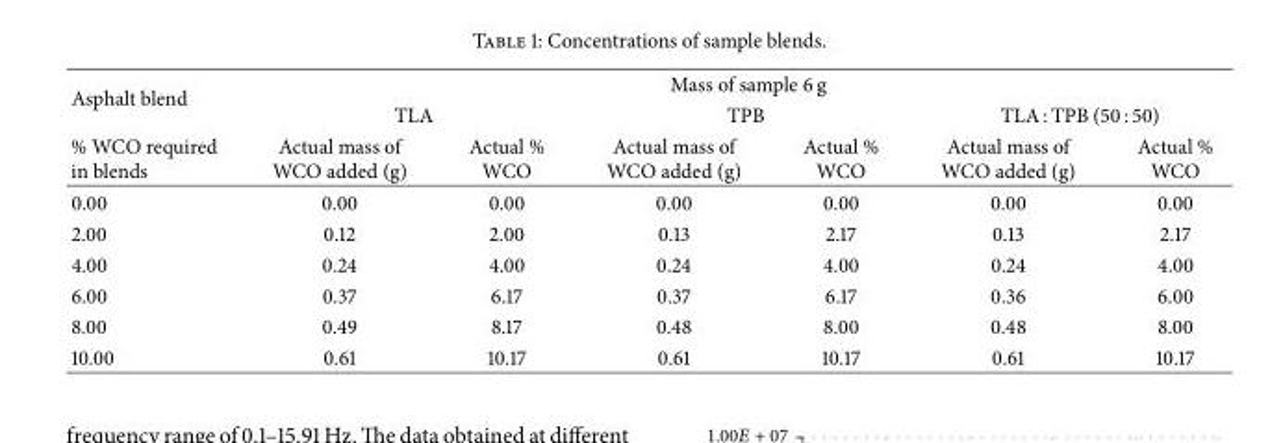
<table><thead><tr><td rowspan="3">Asphalt blend % WCO required in blends</td><td colspan="6">Mass of sample 6 g</td></tr><tr><td colspan="2">TLA</td><td colspan="2">TPB</td><td colspan="2">TLA : TPB (50 : 50)</td></tr><tr><td>Actual mass of WCO added (g)</td><td>Actual % WCO</td><td>Actual mass of WCO added (g)</td><td>Actual % WCO</td><td>Actual mass of WCO added (g)</td><td>Actual % WCO</td></tr></thead><tbody><tr><td>0.00</td><td>0.00</td><td>0.00</td><td>0.00</td><td>0.00</td><td>0.00</td><td>0.00</td></tr><tr><td>2.00</td><td>0.12</td><td>2.00</td><td>0.13</td><td>2.17</td><td>0.13</td><td>2.17</td></tr><tr><td>4.00</td><td>0.24</td><td>4.00</td><td>0.24</td><td>4.00</td><td>0.24</td><td>4.00</td></tr><tr><td>6.00</td><td>0.37</td><td>6.17</td><td>0.37</td><td>6.17</td><td>0.36</td><td>6.00</td></tr><tr><td>8.00</td><td>0.49</td><td>8.17</td><td>0.48</td><td>8.00</td><td>0.48</td><td>8.00</td></tr><tr><td>10.00</td><td>0.61</td><td>10.17</td><td>0.61</td><td>10.17</td><td>0.61</td><td>10.17</td></tr></tbody></table>